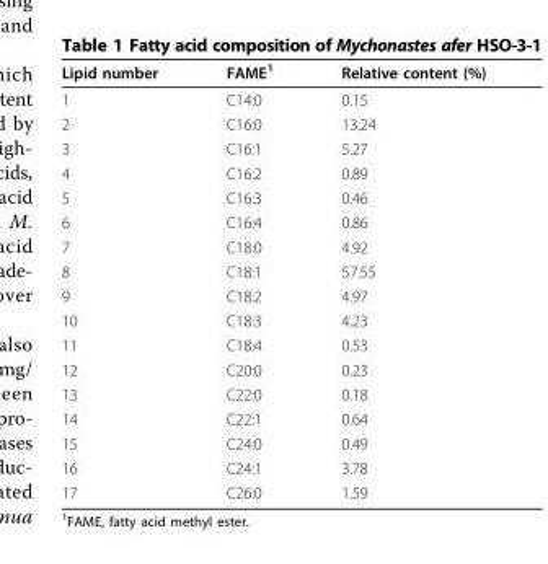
<table><thead><tr><td>Lipid number</td><td>FAME<sup>1</sup></td><td>Relative content (%)</td></tr></thead><tbody><tr><td>1</td><td>C14:0</td><td>0.15</td></tr><tr><td>2</td><td>C16:0</td><td>13.24</td></tr><tr><td>3</td><td>C16:1</td><td>5.27</td></tr><tr><td>4</td><td>C16:2</td><td>0.89</td></tr><tr><td>5</td><td>C16:3</td><td>0.46</td></tr><tr><td>6</td><td>C16:4</td><td>0.86</td></tr><tr><td>7</td><td>C18:0</td><td>4.92</td></tr><tr><td>8</td><td>C18:1</td><td>57.55</td></tr><tr><td>9</td><td>C18:2</td><td>4.97</td></tr><tr><td>10</td><td>C18:3</td><td>4.23</td></tr><tr><td>11</td><td>C18:4</td><td>0.53</td></tr><tr><td>12</td><td>C20:0</td><td>0.23</td></tr><tr><td>13</td><td>C22:0</td><td>0.18</td></tr><tr><td>14</td><td>C22:1</td><td>0.64</td></tr><tr><td>15</td><td>C24:0</td><td>0.49</td></tr><tr><td>16</td><td>C24:1</td><td>3.78</td></tr><tr><td>17</td><td>C26:0</td><td>1.59</td></tr></tbody></table>